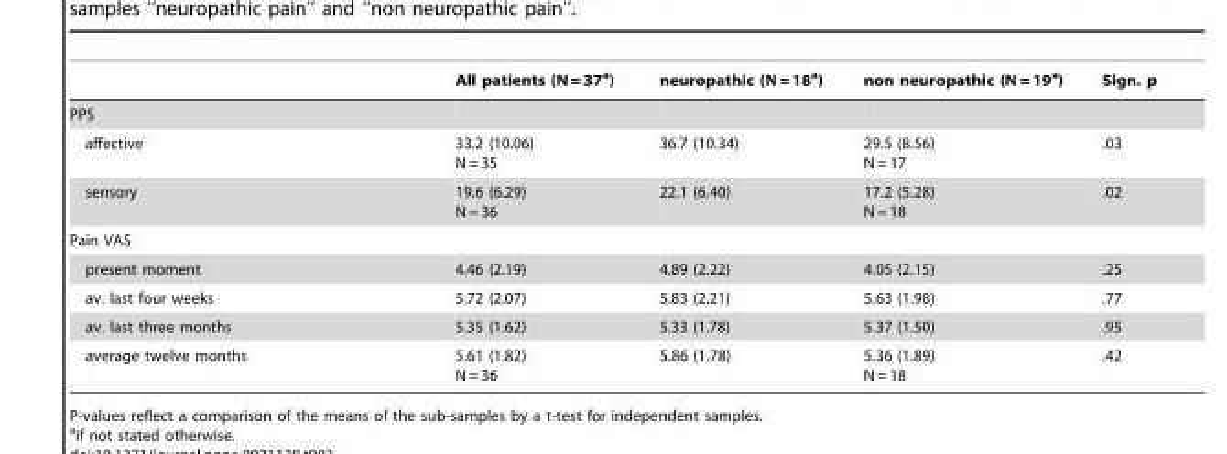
<table><thead><tr><td></td><td>All patients (N = 37<sup>a</sup>)</td><td>neuropathic (N = 18<sup>a</sup>)</td><td>non neuropathic (N = 19<sup>a</sup>)</td><td>Sign. p</td></tr></thead><tbody><tr><td colspan="5">PPS</td></tr><tr><td>affective</td><td>33.2 (10.06) N = 35</td><td>36.7 (10.34)</td><td>29.5 (8.56) N = 17</td><td>.03</td></tr><tr><td>sensory</td><td>19.6 (6.29) N = 36</td><td>22.1 (6.40)</td><td>17.2 (5.28) N = 18</td><td>.02</td></tr><tr><td colspan="5">Pain VAS</td></tr><tr><td>present moment</td><td>4.46 (2.19)</td><td>4.89 (2.22)</td><td>4.05 (2.15)</td><td>.25</td></tr><tr><td>av. last four weeks</td><td>5.72 (2.07)</td><td>5.83 (2.21)</td><td>5.63 (1.98)</td><td>.77</td></tr><tr><td>av. last three months</td><td>5.35 (1.62)</td><td>5.33 (1.78)</td><td>5.37 (1.50)</td><td>.95</td></tr><tr><td>average twelve months</td><td>5.61 (1.82) N = 36</td><td>5.86 (1.78)</td><td>5.36 (1.89) N = 18</td><td>.42</td></tr></tbody></table>